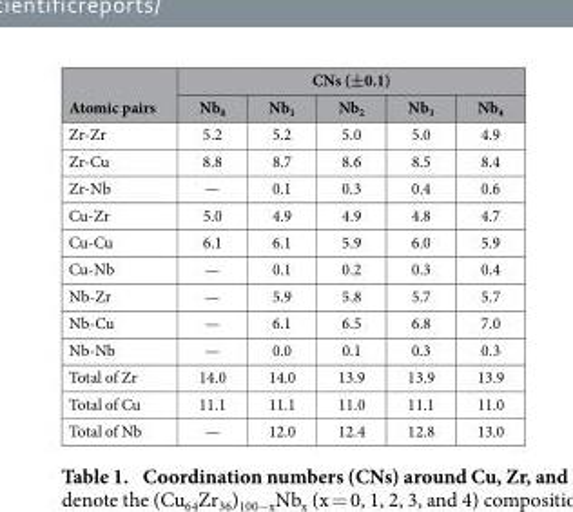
<table><thead><tr><td rowspan="2">Atomic pairs</td><td colspan="5">CNs (±0.1)</td></tr><tr><td>Nb<sub>0</sub></td><td>Nb<sub>1</sub></td><td>Nb<sub>2</sub></td><td>Nb<sub>3</sub></td><td>Nb<sub>4</sub></td></tr></thead><tbody><tr><td>Zr-Zr</td><td>5.2</td><td>5.2</td><td>5.0</td><td>5.0</td><td>4.9</td></tr><tr><td>Zr-Cu</td><td>8.8</td><td>8.7</td><td>8.6</td><td>8.5</td><td>8.4</td></tr><tr><td>Zr-Nb</td><td>—</td><td>0.1</td><td>0.3</td><td>0.4</td><td>0.6</td></tr><tr><td>Cu-Zr</td><td>5.0</td><td>4.9</td><td>4.9</td><td>4.8</td><td>4.7</td></tr><tr><td>Cu-Cu</td><td>6.1</td><td>6.1</td><td>5.9</td><td>6.0</td><td>5.9</td></tr><tr><td>Cu-Nb</td><td>—</td><td>0.1</td><td>0.2</td><td>0.3</td><td>0.4</td></tr><tr><td>Nb-Zr</td><td>—</td><td>5.9</td><td>5.8</td><td>5.7</td><td>5.7</td></tr><tr><td>Nb-Cu</td><td>—</td><td>6.1</td><td>6.5</td><td>6.8</td><td>7.0</td></tr><tr><td>Nb-Nb</td><td>—</td><td>0.0</td><td>0.1</td><td>0.3</td><td>0.3</td></tr><tr><td>Total of Zr</td><td>14.0</td><td>14.0</td><td>13.9</td><td>13.9</td><td>13.9</td></tr><tr><td>Total of Cu</td><td>11.1</td><td>11.1</td><td>11.0</td><td>11.1</td><td>11.0</td></tr><tr><td>Total of Nb</td><td>—</td><td>12.0</td><td>12.4</td><td>12.8</td><td>13.0</td></tr></tbody></table>